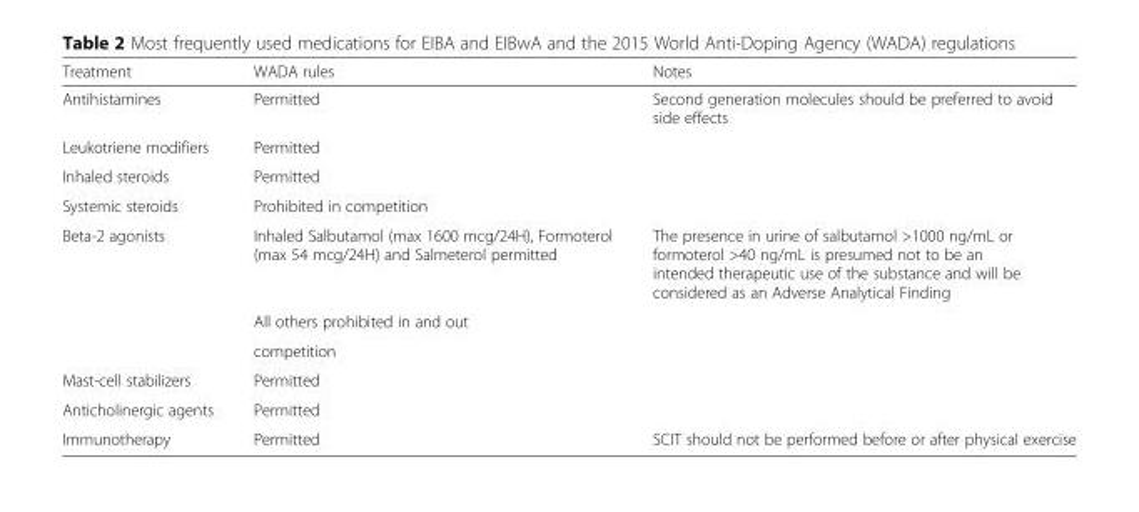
<table><thead><tr><td>Treatment</td><td>WADA rules</td><td>Notes</td></tr></thead><tbody><tr><td>Antihistamines</td><td>Permitted</td><td>Second generation molecules should be preferred to avoid side effects</td></tr><tr><td>Leukotriene modifiers</td><td>Permitted</td><td></td></tr><tr><td>Inhaled steroids</td><td>Permitted</td><td></td></tr><tr><td>Systemic steroids</td><td>Prohibited in competition</td><td></td></tr><tr><td rowspan="3">Beta-2 agonists</td><td>Inhaled Salbutamol (max 1600 mcg/24H), Formoterol (max 54 mcg/24H) and Salmeterol permitted</td><td>The presence in urine of salbutamol &gt;1000 ng/mL or formoterol &gt;40 ng/mL is presumed not to be an intended therapeutic use of the substance and will be considered as an Adverse Analytical Finding</td></tr><tr><td>All others prohibited in and out</td><td></td></tr><tr><td>competition</td><td></td></tr><tr><td>Mast-cell stabilizers</td><td>Permitted</td><td></td></tr><tr><td>Anticholinergic agents</td><td>Permitted</td><td></td></tr><tr><td>Immunotherapy</td><td>Permitted</td><td>SCIT should not be performed before or after physical exercise</td></tr></tbody></table>